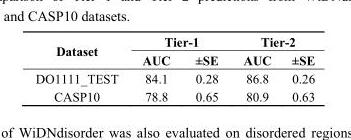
<table><thead><tr><td rowspan="2">Dataset</td><td colspan="2">Tier-1</td><td colspan="2">Tier-2</td></tr><tr><td>AUC</td><td>±SE</td><td>AUC</td><td>±SE</td></tr></thead><tbody><tr><td>DO1111_TEST</td><td>84.1</td><td>0.28</td><td>86.8</td><td>0.26</td></tr><tr><td>CASP10</td><td>78.8</td><td>0.65</td><td>80.9</td><td>0.63</td></tr></tbody></table>